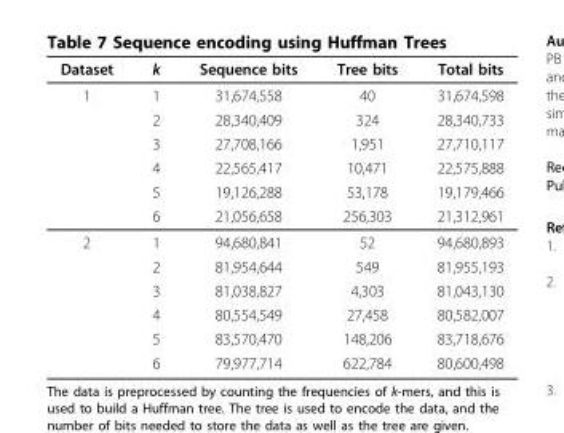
<table><thead><tr><td>Dataset</td><td>k</td><td>Sequence bits</td><td>Tree bits</td><td>Total bits</td></tr></thead><tbody><tr><td rowspan="6">1</td><td>1</td><td>31,674,558</td><td>40</td><td>31,674,598</td></tr><tr><td>2</td><td>28,340,409</td><td>324</td><td>28,340,733</td></tr><tr><td>3</td><td>27,708,166</td><td>1,951</td><td>27,710,117</td></tr><tr><td>4</td><td>22,565,417</td><td>10,471</td><td>22,575,888</td></tr><tr><td>5</td><td>19,126,288</td><td>53,178</td><td>19,179,466</td></tr><tr><td>6</td><td>21,056,658</td><td>256,303</td><td>21,312,961</td></tr><tr><td rowspan="6">2</td><td>1</td><td>94,680,841</td><td>52</td><td>94,680,893</td></tr><tr><td>2</td><td>81,954,644</td><td>549</td><td>81,955,193</td></tr><tr><td>3</td><td>81,038,827</td><td>4,303</td><td>81,043,130</td></tr><tr><td>4</td><td>80,554,549</td><td>27,458</td><td>80,582,007</td></tr><tr><td>5</td><td>83,570,470</td><td>148,206</td><td>83,718,676</td></tr><tr><td>6</td><td>79,977,714</td><td>622,784</td><td>80,600,498</td></tr></tbody></table>